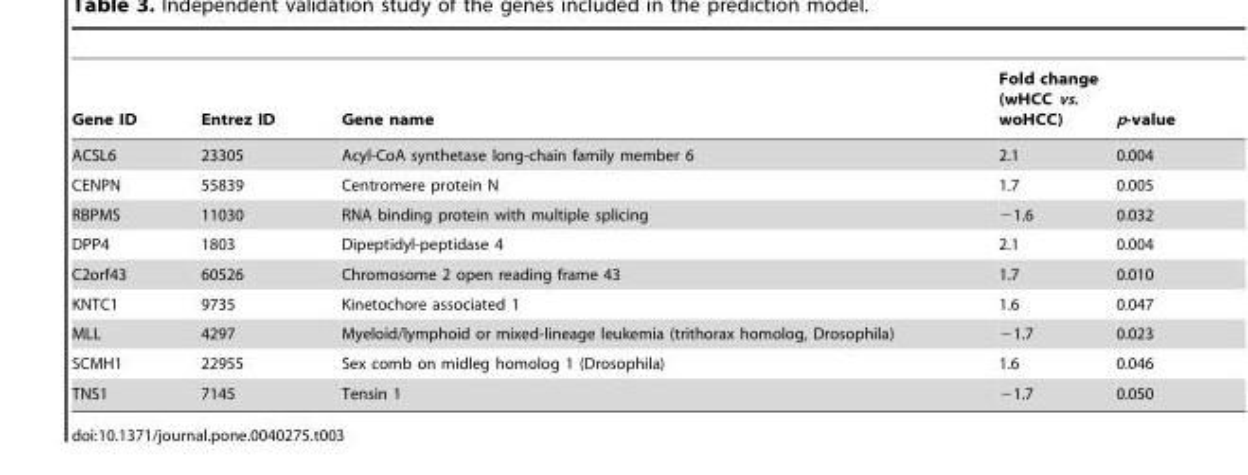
<table><thead><tr><td>Gene ID</td><td>Entrez ID</td><td>Gene name</td><td>Fold change (wHCC vs. woHCC)</td><td>p-value</td></tr></thead><tbody><tr><td>ACSL6</td><td>23305</td><td>Acyl-CoA synthetase long-chain family member 6</td><td>2.1</td><td>0.004</td></tr><tr><td>CENPN</td><td>55839</td><td>Centromere protein N</td><td>1.7</td><td>0.005</td></tr><tr><td>RBPMS</td><td>11030</td><td>RNA binding protein with multiple splicing</td><td>−1.6</td><td>0.032</td></tr><tr><td>DPP4</td><td>1803</td><td>Dipeptidyl-peptidase 4</td><td>2.1</td><td>0.004</td></tr><tr><td>C2orf43</td><td>60526</td><td>Chromosome 2 open reading frame 43</td><td>1.7</td><td>0.010</td></tr><tr><td>KNTC1</td><td>9735</td><td>Kinetochore associated 1</td><td>1.6</td><td>0.047</td></tr><tr><td>MLL</td><td>4297</td><td>Myeloid/lymphoid or mixed-lineage leukemia (trithorax homolog, Drosophila)</td><td>−1.7</td><td>0.023</td></tr><tr><td>SCMH1</td><td>22955</td><td>Sex comb on midleg homolog 1 (Drosophila)</td><td>1.6</td><td>0.046</td></tr><tr><td>TNS1</td><td>7145</td><td>Tensin 1</td><td>−1.7</td><td>0.050</td></tr></tbody></table>